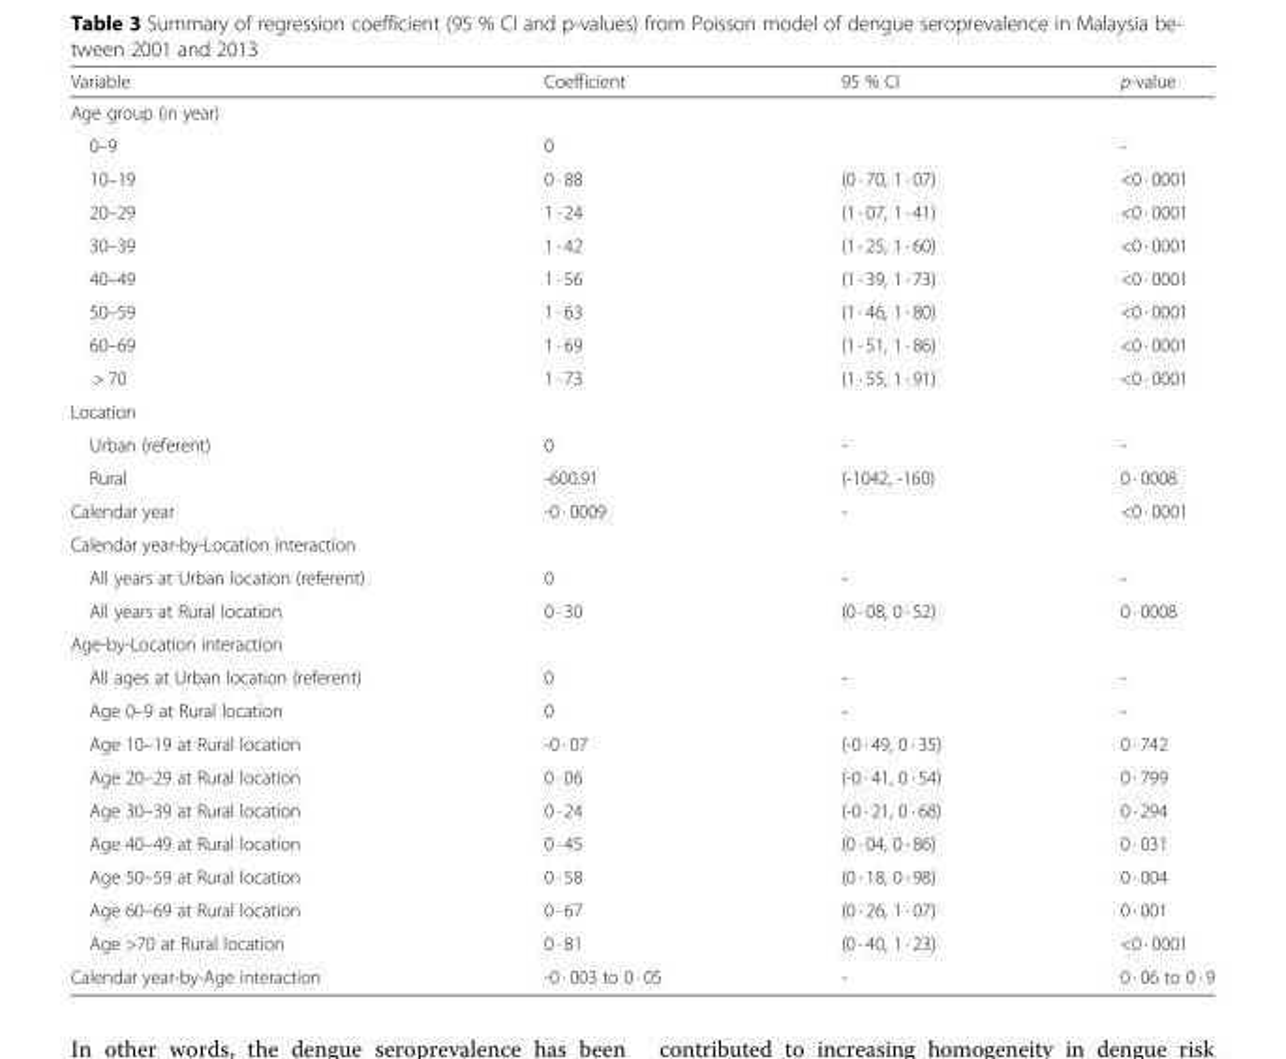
<table><thead><tr><td>Variable</td><td>Coefficient</td><td>95 % CI</td><td>p-value</td></tr></thead><tbody><tr><td colspan="4">Age group (in year)</td></tr><tr><td>0–9</td><td>0</td><td></td><td>-</td></tr><tr><td>10–19</td><td>0 · 88</td><td>(0 · 70, 1 · 07)</td><td>&lt;0 · 0001</td></tr><tr><td>20–29</td><td>1 · 24</td><td>(1 · 07, 1 · 41)</td><td>&lt;0 · 0001</td></tr><tr><td>30–39</td><td>1 · 42</td><td>(1 · 25, 1 · 60)</td><td>&lt;0 · 0001</td></tr><tr><td>40–49</td><td>1 · 56</td><td>(1 · 39, 1 · 73)</td><td>&lt;0 · 0001</td></tr><tr><td>50–59</td><td>1 · 63</td><td>(1 · 46, 1 · 80)</td><td>&lt;0 · 0001</td></tr><tr><td>60–69</td><td>1 · 69</td><td>(1 · 51, 1 · 86)</td><td>&lt;0 · 0001</td></tr><tr><td>&gt; 70</td><td>1 · 73</td><td>(1 · 55, 1 · 91)</td><td>&lt;0 · 0001</td></tr><tr><td colspan="4">Location</td></tr><tr><td>Urban (referent)</td><td>0</td><td>-</td><td>-</td></tr><tr><td>Rural</td><td>-600.91</td><td>(-1042, -160)</td><td>0 · 0008</td></tr><tr><td>Calendar year</td><td>-0 · 0009</td><td>-</td><td>&lt;0 · 0001</td></tr><tr><td colspan="4">Calendar year-by-Location interaction</td></tr><tr><td>All years at Urban location (referent)</td><td>0</td><td>-</td><td>-</td></tr><tr><td>All years at Rural location</td><td>0 · 30</td><td>(0 · 08, 0 · 52)</td><td>0 · 0008</td></tr><tr><td colspan="4">Age-by-Location interaction</td></tr><tr><td>All ages at Urban location (referent)</td><td>0</td><td>-</td><td>-</td></tr><tr><td>Age 0–9 at Rural location</td><td>0</td><td>-</td><td>-</td></tr><tr><td>Age 10–19 at Rural location</td><td>-0 · 07</td><td>(-0 · 49, 0 · 35)</td><td>0 · 742</td></tr><tr><td>Age 20–29 at Rural location</td><td>0 · 06</td><td>(-0 · 41, 0 · 54)</td><td>0 · 799</td></tr><tr><td>Age 30–39 at Rural location</td><td>0 · 24</td><td>(-0 · 21, 0 · 68)</td><td>0 · 294</td></tr><tr><td>Age 40–49 at Rural location</td><td>0 · 45</td><td>(0 · 04, 0 · 86)</td><td>0 · 031</td></tr><tr><td>Age 50–59 at Rural location</td><td>0 · 58</td><td>(0 · 18, 0 · 98)</td><td>0 · 004</td></tr><tr><td>Age 60–69 at Rural location</td><td>0 · 67</td><td>(0 · 26, 1 · 07)</td><td>0 · 001</td></tr><tr><td>Age &gt;70 at Rural location</td><td>0 · 81</td><td>(0 · 40, 1 · 23)</td><td>&lt;0 · 0001</td></tr><tr><td>Calendar year-by-Age interaction</td><td>-0 · 003 to 0 · 05</td><td>-</td><td>0 · 06 to 0 · 9</td></tr></tbody></table>